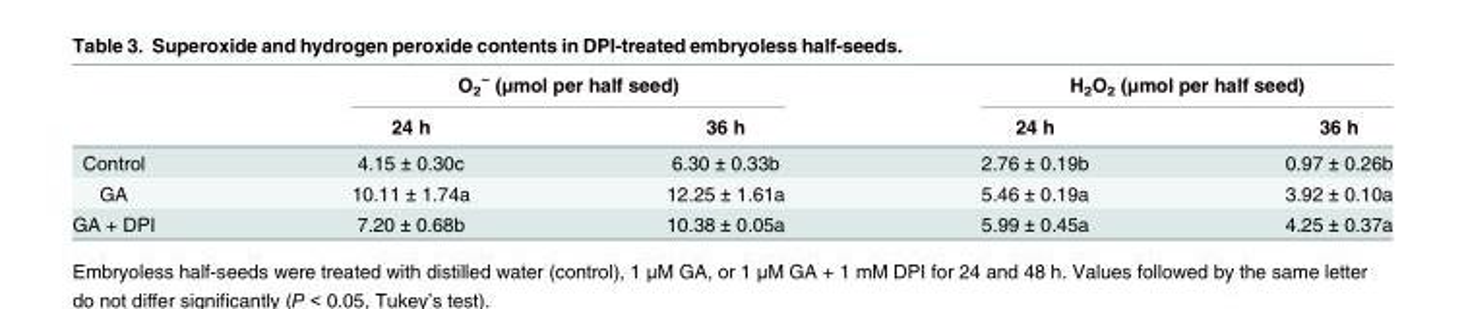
<table><thead><tr><td rowspan="2"></td><td colspan="2">O<sub>2</sub> <sup>−</sup> (μmol per half seed)</td><td colspan="2">H<sub>2</sub>O<sub>2</sub> (μmol per half seed)</td></tr><tr><td>24 h</td><td>36 h</td><td>24 h</td><td>36 h</td></tr></thead><tbody><tr><td>Control</td><td>4.15 ± 0.30c</td><td>6.30 ± 0.33b</td><td>2.76 ± 0.19b</td><td>0.97 ± 0.26b</td></tr><tr><td>GA</td><td>10.11 ± 1.74a</td><td>12.25 ± 1.61a</td><td>5.46 ± 0.19a</td><td>3.92 ± 0.10a</td></tr><tr><td>GA + DPI</td><td>7.20 ± 0.68b</td><td>10.38 ± 0.05a</td><td>5.99 ± 0.45a</td><td>4.25 ± 0.37a</td></tr></tbody></table>